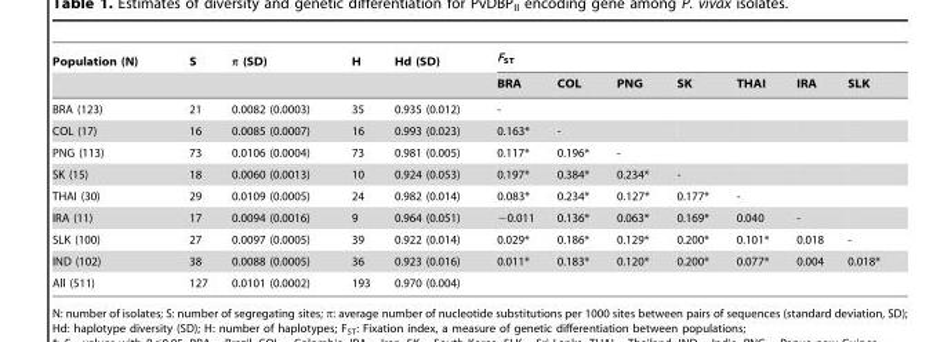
<table><thead><tr><td rowspan="2">Population (N)</td><td rowspan="2">S</td><td rowspan="2">π (SD)</td><td rowspan="2">H</td><td rowspan="2">Hd (SD)</td><td colspan="7">F<sub>ST</sub></td></tr><tr><td>BRA</td><td>COL</td><td>PNG</td><td>SK</td><td>THAI</td><td>IRA</td><td>SLK</td></tr></thead><tbody><tr><td>BRA (123)</td><td>21</td><td>0.0082 (0.0003)</td><td>35</td><td>0.935 (0.012)</td><td>-</td><td></td><td></td><td></td><td></td><td></td><td></td></tr><tr><td>COL (17)</td><td>16</td><td>0.0085 (0.0007)</td><td>16</td><td>0.993 (0.023)</td><td>0.163*</td><td>-</td><td></td><td></td><td></td><td></td><td></td></tr><tr><td>PNG (113)</td><td>73</td><td>0.0106 (0.0004)</td><td>73</td><td>0.981 (0.005)</td><td>0.117*</td><td>0.196*</td><td>-</td><td></td><td></td><td></td><td></td></tr><tr><td>SK (15)</td><td>18</td><td>0.0060 (0.0013)</td><td>10</td><td>0.924 (0.053)</td><td>0.197*</td><td>0.384*</td><td>0.234*</td><td>-</td><td></td><td></td><td></td></tr><tr><td>THAI (30)</td><td>29</td><td>0.0109 (0.0005)</td><td>24</td><td>0.982 (0.014)</td><td>0.083*</td><td>0.234*</td><td>0.127*</td><td>0.177*</td><td>-</td><td></td><td></td></tr><tr><td>IRA (11)</td><td>17</td><td>0.0094 (0.0016)</td><td>9</td><td>0.964 (0.051)</td><td>−0.011</td><td>0.136*</td><td>0.063*</td><td>0.169*</td><td>0.040</td><td>-</td><td></td></tr><tr><td>SLK (100)</td><td>27</td><td>0.0097 (0.0005)</td><td>39</td><td>0.922 (0.014)</td><td>0.029*</td><td>0.186*</td><td>0.129*</td><td>0.200*</td><td>0.101*</td><td>0.018</td><td>-</td></tr><tr><td>IND (102)</td><td>38</td><td>0.0088 (0.0005)</td><td>36</td><td>0.923 (0.016)</td><td>0.011*</td><td>0.183*</td><td>0.120*</td><td>0.200*</td><td>0.077*</td><td>0.004</td><td>0.018*</td></tr><tr><td>All (511)</td><td>127</td><td>0.0101 (0.0002)</td><td>193</td><td>0.970 (0.004)</td><td></td><td></td><td></td><td></td><td></td><td></td><td></td></tr></tbody></table>